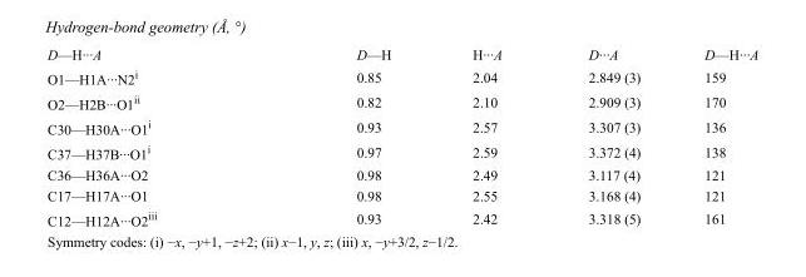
<table><tbody><tr><td>D—H···A</td><td>D—H</td><td>H···A</td><td>D···A</td><td>D—H···A</td></tr><tr><td>O1—H1A···N2<sup>i</sup></td><td>0.85</td><td>2.04</td><td>2.849 (3)</td><td>159</td></tr><tr><td>O2—H2B···O1<sup>ii</sup></td><td>0.82</td><td>2.10</td><td>2.909 (3)</td><td>170</td></tr><tr><td>C30—H30A···O1<sup>i</sup></td><td>0.93</td><td>2.57</td><td>3.307 (3)</td><td>136</td></tr><tr><td>C37—H37B···O1<sup>i</sup></td><td>0.97</td><td>2.59</td><td>3.372 (4)</td><td>138</td></tr><tr><td>C36—H36A···O2</td><td>0.98</td><td>2.49</td><td>3.117 (4)</td><td>121</td></tr><tr><td>C17—H17A···O1</td><td>0.98</td><td>2.55</td><td>3.168 (4)</td><td>121</td></tr><tr><td>C12—H12A···O2<sup>iii</sup></td><td>0.93</td><td>2.42</td><td>3.318 (5)</td><td>161</td></tr></tbody></table>